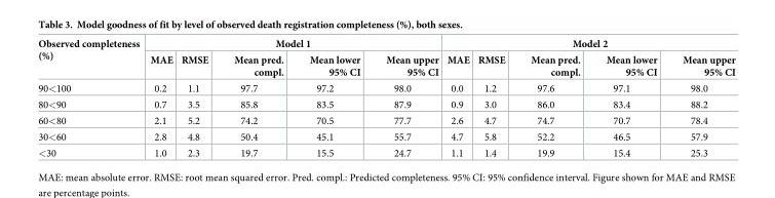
<table><thead><tr><td rowspan="2">Observed completeness (%)</td><td colspan="5">Model 1</td><td colspan="5">Model 2</td></tr><tr><td>MAE</td><td>RMSE</td><td>Mean pred. compl.</td><td>Mean lower 95% CI</td><td>Mean upper 95% CI</td><td>MAE</td><td>RMSE</td><td>Mean pred. compl.</td><td>Mean lower 95% CI</td><td>Mean upper 95% CI</td></tr></thead><tbody><tr><td>90&lt;100</td><td>0.2</td><td>1.1</td><td>97.7</td><td>97.2</td><td>98.0</td><td>0.0</td><td>1.2</td><td>97.6</td><td>97.1</td><td>98.0</td></tr><tr><td>80&lt;90</td><td>0.7</td><td>3.5</td><td>85.8</td><td>83.5</td><td>87.9</td><td>0.9</td><td>3.0</td><td>86.0</td><td>83.4</td><td>88.2</td></tr><tr><td>60&lt;80</td><td>2.1</td><td>5.2</td><td>74.2</td><td>70.5</td><td>77.7</td><td>2.6</td><td>4.7</td><td>74.7</td><td>70.7</td><td>78.4</td></tr><tr><td>30&lt;60</td><td>2.8</td><td>4.8</td><td>50.4</td><td>45.1</td><td>55.7</td><td>4.7</td><td>5.8</td><td>52.2</td><td>46.5</td><td>57.9</td></tr><tr><td>&lt;30</td><td>1.0</td><td>2.3</td><td>19.7</td><td>15.5</td><td>24.7</td><td>1.1</td><td>1.4</td><td>19.9</td><td>15.4</td><td>25.3</td></tr></tbody></table>